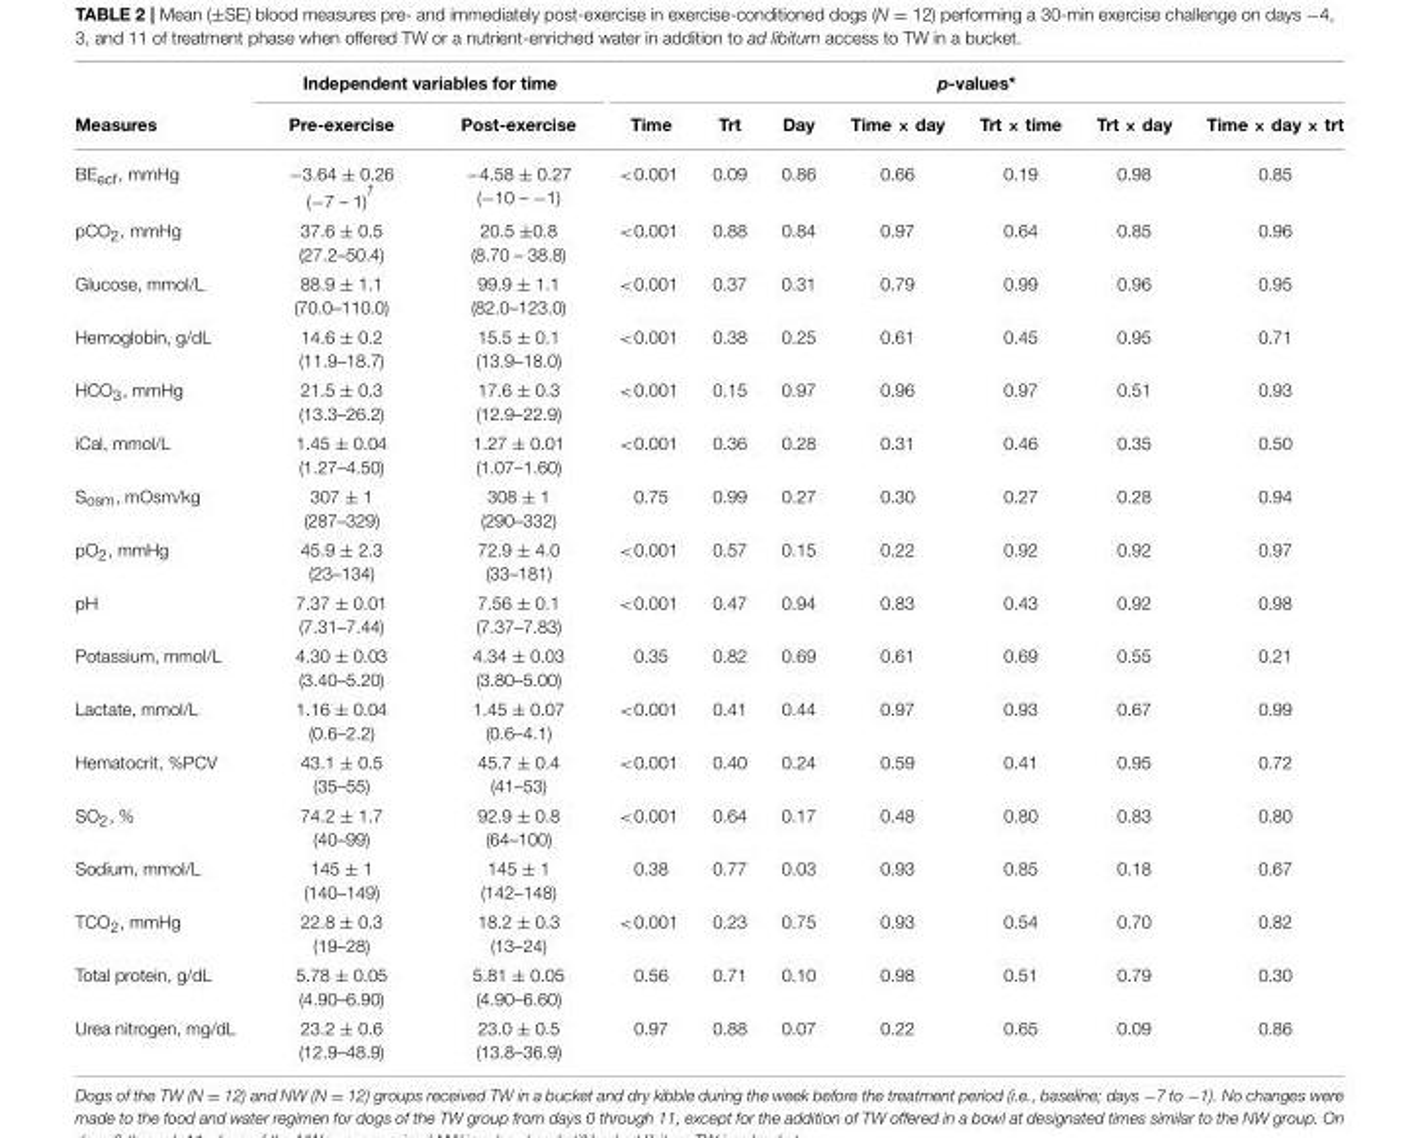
<table><thead><tr><td rowspan="2">Measures</td><td colspan="2">Independent variables for time</td><td colspan="7">p-values*</td></tr><tr><td>Pre-exercise</td><td>Post-exercise</td><td>Time</td><td>Trt</td><td>Day</td><td>Time × day</td><td>Trt × time</td><td>Trt × day</td><td>Time × day × trt</td></tr></thead><tbody><tr><td>BE<sub>ecf</sub>, mmHg</td><td>−3.64 ± 0.26 (−7 – 1) †</td><td>−4.58 ± 0.27 (−10 – −1)</td><td>&lt;0.001</td><td>0.09</td><td>0.86</td><td>0.66</td><td>0.19</td><td>0.98</td><td>0.85</td></tr><tr><td>pCO<sub>2</sub>, mmHg</td><td>37.6 ± 0.5 (27.2–50.4)</td><td>20.5 ±0.8 (8.70 – 38.8)</td><td>&lt;0.001</td><td>0.88</td><td>0.84</td><td>0.97</td><td>0.64</td><td>0.85</td><td>0.96</td></tr><tr><td>Glucose, mmol/L</td><td>88.9 ± 1.1 (70.0–110.0)</td><td>99.9 ± 1.1 (82.0–123.0)</td><td>&lt;0.001</td><td>0.37</td><td>0.31</td><td>0.79</td><td>0.99</td><td>0.96</td><td>0.95</td></tr><tr><td>Hemoglobin, g/dL</td><td>14.6 ± 0.2 (11.9–18.7)</td><td>15.5 ± 0.1 (13.9–18.0)</td><td>&lt;0.001</td><td>0.38</td><td>0.25</td><td>0.61</td><td>0.45</td><td>0.95</td><td>0.71</td></tr><tr><td>HCO<sub>3</sub>, mmHg</td><td>21.5 ± 0.3 (13.3–26.2)</td><td>17.6 ± 0.3 (12.9–22.9)</td><td>&lt;0.001</td><td>0.15</td><td>0.97</td><td>0.96</td><td>0.97</td><td>0.51</td><td>0.93</td></tr><tr><td>iCal, mmol/L</td><td>1.45 ± 0.04 (1.27–4.50)</td><td>1.27 ± 0.01 (1.07–1.60)</td><td>&lt;0.001</td><td>0.36</td><td>0.28</td><td>0.31</td><td>0.46</td><td>0.35</td><td>0.50</td></tr><tr><td>S<sub>osm</sub>, mOsm/kg</td><td>307 ± 1 (287–329)</td><td>308 ± 1 (290–332)</td><td>0.75</td><td>0.99</td><td>0.27</td><td>0.30</td><td>0.27</td><td>0.28</td><td>0.94</td></tr><tr><td>pO<sub>2</sub>, mmHg</td><td>45.9 ± 2.3 (23–134)</td><td>72.9 ± 4.0 (33–181)</td><td>&lt;0.001</td><td>0.57</td><td>0.15</td><td>0.22</td><td>0.92</td><td>0.92</td><td>0.97</td></tr><tr><td>pH</td><td>7.37 ± 0.01 (7.31–7.44)</td><td>7.56 ± 0.1 (7.37–7.83)</td><td>&lt;0.001</td><td>0.47</td><td>0.94</td><td>0.83</td><td>0.43</td><td>0.92</td><td>0.98</td></tr><tr><td>Potassium, mmol/L</td><td>4.30 ± 0.03 (3.40–5.20)</td><td>4.34 ± 0.03 (3.80–5.00)</td><td>0.35</td><td>0.82</td><td>0.69</td><td>0.61</td><td>0.69</td><td>0.55</td><td>0.21</td></tr><tr><td>Lactate, mmol/L</td><td>1.16 ± 0.04 (0.6–2.2)</td><td>1.45 ± 0.07 (0.6–4.1)</td><td>&lt;0.001</td><td>0.41</td><td>0.44</td><td>0.97</td><td>0.93</td><td>0.67</td><td>0.99</td></tr><tr><td>Hematocrit, %PCV</td><td>43.1 ± 0.5 (35–55)</td><td>45.7 ± 0.4 (41–53)</td><td>&lt;0.001</td><td>0.40</td><td>0.24</td><td>0.59</td><td>0.41</td><td>0.95</td><td>0.72</td></tr><tr><td>SO<sub>2</sub>, %</td><td>74.2 ± 1.7 (40–99)</td><td>92.9 ± 0.8 (64–100)</td><td>&lt;0.001</td><td>0.64</td><td>0.17</td><td>0.48</td><td>0.80</td><td>0.83</td><td>0.80</td></tr><tr><td>Sodium, mmol/L</td><td>145 ± 1 (140–149)</td><td>145 ± 1 (142–148)</td><td>0.38</td><td>0.77</td><td>0.03</td><td>0.93</td><td>0.85</td><td>0.18</td><td>0.67</td></tr><tr><td>TCO<sub>2</sub>, mmHg</td><td>22.8 ± 0.3 (19–28)</td><td>18.2 ± 0.3 (13–24)</td><td>&lt;0.001</td><td>0.23</td><td>0.75</td><td>0.93</td><td>0.54</td><td>0.70</td><td>0.82</td></tr><tr><td>Total protein, g/dL</td><td>5.78 ± 0.05 (4.90–6.90)</td><td>5.81 ± 0.05 (4.90–6.60)</td><td>0.56</td><td>0.71</td><td>0.10</td><td>0.98</td><td>0.51</td><td>0.79</td><td>0.30</td></tr><tr><td>Urea nitrogen, mg/dL</td><td>23.2 ± 0.6 (12.9–48.9)</td><td>23.0 ± 0.5 (13.8–36.9)</td><td>0.97</td><td>0.88</td><td>0.07</td><td>0.22</td><td>0.65</td><td>0.09</td><td>0.86</td></tr></tbody></table>